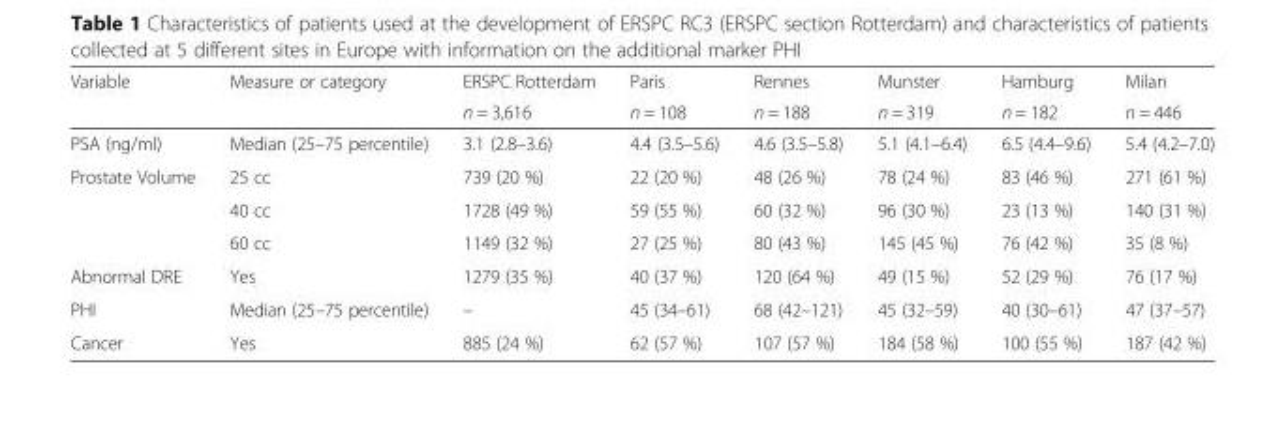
<table><thead><tr><td rowspan="2">Variable</td><td rowspan="2">Measure or category</td><td rowspan="2">ERSPC Rotterdam n = 3,616</td><td rowspan="2">Paris n = 108</td><td rowspan="2">Rennes n = 188</td><td rowspan="2">Munster n = 319</td><td rowspan="2">Hamburg n = 182</td><td rowspan="2">Milan n = 446</td></tr><tr></tr></thead><tbody><tr><td>PSA (ng/ml)</td><td>Median (25–75 percentile)</td><td>3.1 (2.8–3.6)</td><td>4.4 (3.5–5.6)</td><td>4.6 (3.5–5.8)</td><td>5.1 (4.1–6.4)</td><td>6.5 (4.4–9.6)</td><td>5.4 (4.2–7.0)</td></tr><tr><td rowspan="3">Prostate Volume</td><td>25 cc</td><td>739 (20 %)</td><td>22 (20 %)</td><td>48 (26 %)</td><td>78 (24 %)</td><td>83 (46 %)</td><td>271 (61 %)</td></tr><tr><td>40 cc</td><td>1728 (49 %)</td><td>59 (55 %)</td><td>60 (32 %)</td><td>96 (30 %)</td><td>23 (13 %)</td><td>140 (31 %)</td></tr><tr><td>60 cc</td><td>1149 (32 %)</td><td>27 (25 %)</td><td>80 (43 %)</td><td>145 (45 %)</td><td>76 (42 %)</td><td>35 (8 %)</td></tr><tr><td>Abnormal DRE</td><td>Yes</td><td>1279 (35 %)</td><td>40 (37 %)</td><td>120 (64 %)</td><td>49 (15 %)</td><td>52 (29 %)</td><td>76 (17 %)</td></tr><tr><td>PHI</td><td>Median (25–75 percentile)</td><td>–</td><td>45 (34–61)</td><td>68 (42–121)</td><td>45 (32–59)</td><td>40 (30–61)</td><td>47 (37–57)</td></tr><tr><td>Cancer</td><td>Yes</td><td>885 (24 %)</td><td>62 (57 %)</td><td>107 (57 %)</td><td>184 (58 %)</td><td>100 (55 %)</td><td>187 (42 %)</td></tr></tbody></table>